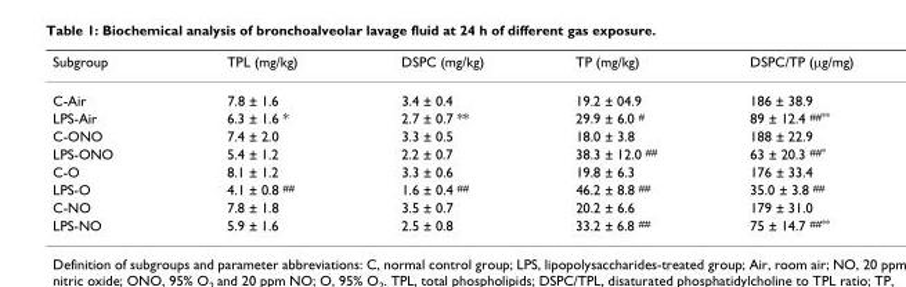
<table><thead><tr><td>Subgroup</td><td>TPL (mg/kg)</td><td>DSPC (mg/kg)</td><td>TP (mg/kg)</td><td>DSPC/TP (µg/mg)</td></tr></thead><tbody><tr><td>C-Air</td><td>7.8 ± 1.6</td><td>3.4 ± 0.4</td><td>19.2 ± 04.9</td><td>186 ± 38.9</td></tr><tr><td>LPS-Air</td><td>6.3 ± 1.6 *</td><td>2.7 ± 0.7 **</td><td>29.9 ± 6.0 <sup>#</sup></td><td>89 ± 12.4 <sup>##**</sup></td></tr><tr><td>C-ONO</td><td>7.4 ± 2.0</td><td>3.3 ± 0.5</td><td>18.0 ± 3.8</td><td>188 ± 22.9</td></tr><tr><td>LPS-ONO</td><td>5.4 ± 1.2</td><td>2.2 ± 0.7</td><td>38.3 ± 12.0 <sup>##</sup></td><td>63 ± 20.3 <sup>##*</sup></td></tr><tr><td>C-O</td><td>8.1 ± 1.2</td><td>3.3 ± 0.6</td><td>19.8 ± 6.3</td><td>176 ± 33.4</td></tr><tr><td>LPS-O</td><td>4.1 ± 0.8 <sup>##</sup></td><td>1.6 ± 0.4 <sup>##</sup></td><td>46.2 ± 8.8 <sup>##</sup></td><td>35.0 ± 3.8 <sup>##</sup></td></tr><tr><td>C-NO</td><td>7.8 ± 1.8</td><td>3.5 ± 0.7</td><td>20.2 ± 6.6</td><td>179 ± 31.0</td></tr><tr><td>LPS-NO</td><td>5.9 ± 1.6</td><td>2.5 ± 0.8</td><td>33.2 ± 6.8 <sup>##</sup></td><td>75 ± 14.7 <sup>##**</sup></td></tr></tbody></table>